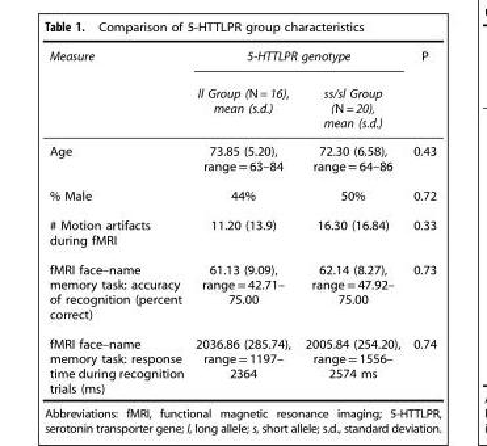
<table><thead><tr><td rowspan="2">Measure</td><td colspan="2">5-HTTLPR genotype</td><td rowspan="2">P</td></tr><tr><td>ll Group (N = 16), mean (s.d.)</td><td>ss/sl Group (N = 20), mean (s.d.)</td></tr></thead><tbody><tr><td>Age</td><td>73.85 (5.20), range = 63–84</td><td>72.30 (6.58), range = 64–86</td><td>0.43</td></tr><tr><td>% Male</td><td>44%</td><td>50%</td><td>0.72</td></tr><tr><td># Motion artifacts during fMRI</td><td>11.20 (13.9)</td><td>16.30 (16.84)</td><td>0.33</td></tr><tr><td>fMRI face–name memory task: accuracy of recognition (percent correct)</td><td>61.13 (9.09), range = 42.71– 75.00</td><td>62.14 (8.27), range = 47.92– 75.00</td><td>0.73</td></tr><tr><td>fMRI face–name memory task: response time during recognition trials (ms)</td><td>2036.86 (285.74), range = 1197– 2364</td><td>2005.84 (254.20), range = 1556– 2574 ms</td><td>0.74</td></tr></tbody></table>